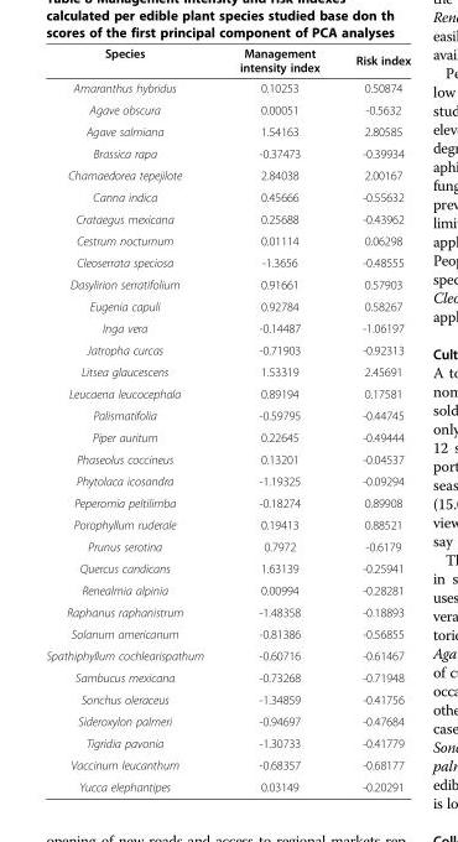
<table><thead><tr><td>Species</td><td>Management intensity index</td><td>Risk index</td></tr></thead><tbody><tr><td>Amaranthus hybridus</td><td>0.10253</td><td>0.50874</td></tr><tr><td>Agave obscura</td><td>0.00051</td><td>-0.5632</td></tr><tr><td>Agave salmiana</td><td>1.54163</td><td>2.80585</td></tr><tr><td>Brassica rapa</td><td>-0.37473</td><td>-0.39934</td></tr><tr><td>Chamaedorea tepejilote</td><td>2.84038</td><td>2.00167</td></tr><tr><td>Canna indica</td><td>0.45666</td><td>-0.55632</td></tr><tr><td>Crataegus mexicana</td><td>0.25688</td><td>-0.43962</td></tr><tr><td>Cestrum nocturnum</td><td>0.01114</td><td>0.06298</td></tr><tr><td>Cleoserrata speciosa</td><td>-1.3656</td><td>-0.48555</td></tr><tr><td>Dasylirion serratifolium</td><td>0.91661</td><td>0.57903</td></tr><tr><td>Eugenia capuli</td><td>0.92784</td><td>0.58267</td></tr><tr><td>Inga vera</td><td>-0.14487</td><td>-1.06197</td></tr><tr><td>Jatropha curcas</td><td>-0.71903</td><td>-0.92313</td></tr><tr><td>Litsea glaucescens</td><td>1.53319</td><td>2.45691</td></tr><tr><td>Leucaena leucocephala</td><td>0.89194</td><td>0.17581</td></tr><tr><td>Palismatifolia</td><td>-0.59795</td><td>-0.44745</td></tr><tr><td>Piper auritum</td><td>0.22645</td><td>-0.49444</td></tr><tr><td>Phaseolus coccineus</td><td>0.13201</td><td>-0.04537</td></tr><tr><td>Phytolaca icosandra</td><td>-1.19325</td><td>-0.09294</td></tr><tr><td>Peperomia peltilimba</td><td>-0.18274</td><td>0.89908</td></tr><tr><td>Porophyllum ruderale</td><td>0.19413</td><td>0.88521</td></tr><tr><td>Prunus serotina</td><td>0.7972</td><td>-0.6179</td></tr><tr><td>Quercus candicans</td><td>1.63139</td><td>-0.25941</td></tr><tr><td>Renealmia alpinia</td><td>0.00994</td><td>-0.28281</td></tr><tr><td>Raphanus raphanistrum</td><td>-1.48358</td><td>-0.18893</td></tr><tr><td>Solanum americanum</td><td>-0.81386</td><td>-0.56855</td></tr><tr><td>Spathiphyllum cochlearispathum</td><td>-0.60716</td><td>-0.61467</td></tr><tr><td>Sambucus mexicana</td><td>-0.73268</td><td>-0.71948</td></tr><tr><td>Sonchus oleraceus</td><td>-1.34859</td><td>-0.41756</td></tr><tr><td>Sideroxylon palmeri</td><td>-0.94697</td><td>-0.47684</td></tr><tr><td>Tigridia pavonia</td><td>-1.30733</td><td>-0.41779</td></tr><tr><td>Vaccinum leucanthum</td><td>-0.68357</td><td>-0.68177</td></tr><tr><td>Yucca elephantipes</td><td>0.03149</td><td>-0.20291</td></tr></tbody></table>